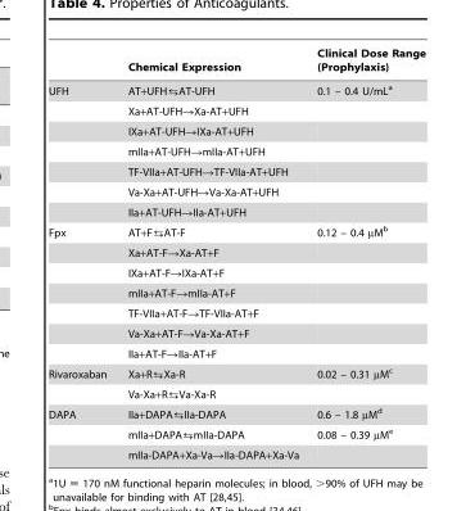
<table><thead><tr><td></td><td>Chemical Expression</td><td>Clinical Dose Range (Prophylaxis)</td></tr></thead><tbody><tr><td rowspan="7">UFH</td><td>AT+UFHOAT-UFH</td><td>0.1 – 0.4 U/mL<sup>a</sup></td></tr><tr><td>Xa+AT-UFH→Xa-AT+UFH</td><td></td></tr><tr><td>IXa+AT-UFH→IXa-AT+UFH</td><td></td></tr><tr><td>mIIa+AT-UFH→mIIa-AT+UFH</td><td></td></tr><tr><td>TF-VIIa+AT-UFH→TF-VIIa-AT+UFH</td><td></td></tr><tr><td>Va-Xa+AT-UFH→Va-Xa-AT+UFH</td><td></td></tr><tr><td>IIa+AT-UFH→IIa-AT+UFH</td><td></td></tr><tr><td rowspan="7">Fpx</td><td>AT+FOAT-F</td><td>0.12 – 0.4 µM<sup>b</sup></td></tr><tr><td>Xa+AT-F→Xa-AT+F</td><td></td></tr><tr><td>IXa+AT-F→IXa-AT+F</td><td></td></tr><tr><td>mIIa+AT-F→mIIa-AT+F</td><td></td></tr><tr><td>TF-VIIa+AT-F→TF-VIIa-AT+F</td><td></td></tr><tr><td>Va-Xa+AT-F→Va-Xa-AT+F</td><td></td></tr><tr><td>IIa+AT-F→IIa-AT+F</td><td></td></tr><tr><td rowspan="2">Rivaroxaban</td><td>Xa+ROXa-R</td><td>0.02 – 0.31 µM<sup>c</sup></td></tr><tr><td>Va-Xa+ROVa-Xa-R</td><td></td></tr><tr><td rowspan="3">DAPA</td><td>IIa+DAPAOIIa-DAPA</td><td>0.6 – 1.8 µM<sup>d</sup></td></tr><tr><td>mIIa+DAPAOmIIa-DAPA</td><td>0.08 – 0.39 µM<sup>e</sup></td></tr><tr><td>mIIa-DAPA+Xa-Va→IIa-DAPA+Xa-Va</td><td></td></tr></tbody></table>